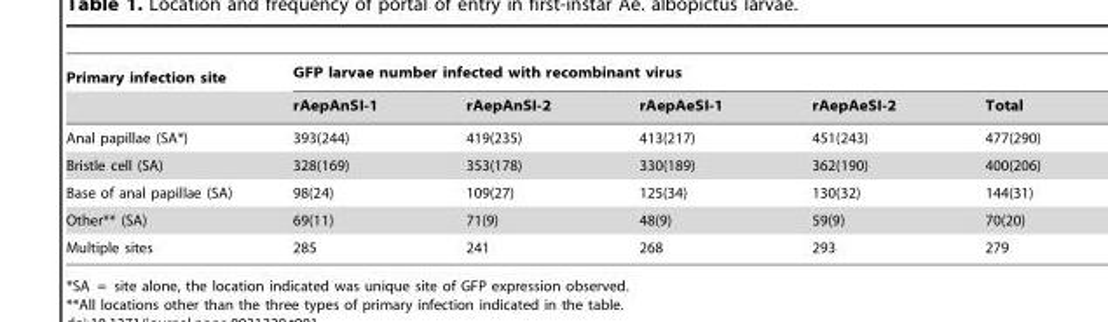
<table><thead><tr><td rowspan="2">Primary infection site</td><td colspan="5">GFP larvae number infected with recombinant virus</td></tr><tr><td>rAepAnSI-1</td><td>rAepAnSI-2</td><td>rAepAeSI-1</td><td>rAepAeSI-2</td><td>Total</td></tr></thead><tbody><tr><td>Anal papillae (SA*)</td><td>393(244)</td><td>419(235)</td><td>413(217)</td><td>451(243)</td><td>477(290)</td></tr><tr><td>Bristle cell (SA)</td><td>328(169)</td><td>353(178)</td><td>330(189)</td><td>362(190)</td><td>400(206)</td></tr><tr><td>Base of anal papillae (SA)</td><td>98(24)</td><td>109(27)</td><td>125(34)</td><td>130(32)</td><td>144(31)</td></tr><tr><td>Other** (SA)</td><td>69(11)</td><td>71(9)</td><td>48(9)</td><td>59(9)</td><td>70(20)</td></tr><tr><td>Multiple sites</td><td>285</td><td>241</td><td>268</td><td>293</td><td>279</td></tr></tbody></table>